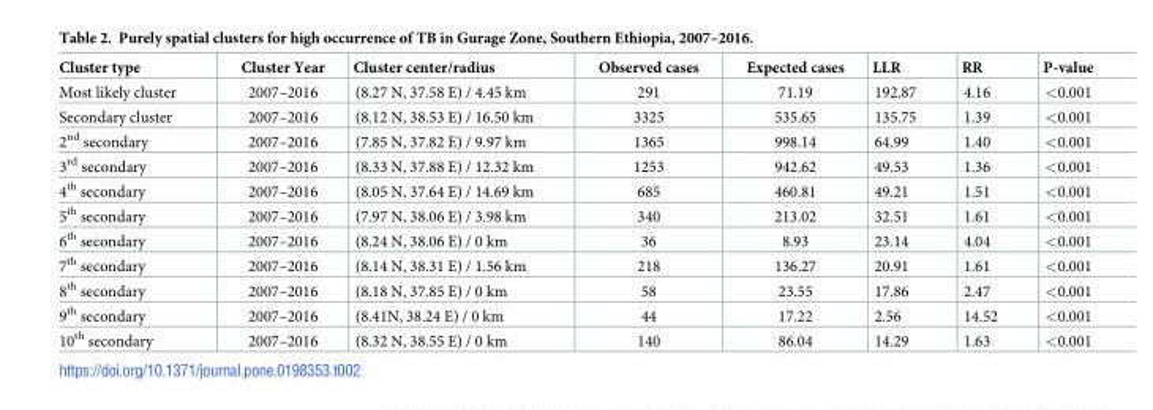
<table><thead><tr><td>Cluster type</td><td>Cluster Year</td><td>Cluster center/radius</td><td>Observed cases</td><td>Expected cases</td><td>LLR</td><td>RR</td><td>P-value</td></tr></thead><tbody><tr><td>Most likely cluster</td><td>2007–2016</td><td>(8.27 N, 37.58 E) / 4.45 km</td><td>291</td><td>71.19</td><td>192.87</td><td>4.16</td><td>&lt;0.001</td></tr><tr><td>Secondary cluster</td><td>2007–2016</td><td>(8.12 N, 38.53 E) / 16.50 km</td><td>3325</td><td>535.65</td><td>135.75</td><td>1.39</td><td>&lt;0.001</td></tr><tr><td>2<sup>nd</sup> secondary</td><td>2007–2016</td><td>(7.85 N, 37.82 E) / 9.97 km</td><td>1365</td><td>998.14</td><td>64.99</td><td>1.40</td><td>&lt;0.001</td></tr><tr><td>3<sup>rd</sup> secondary</td><td>2007–2016</td><td>(8.33 N, 37.88 E) / 12.32 km</td><td>1253</td><td>942.62</td><td>49.53</td><td>1.36</td><td>&lt;0.001</td></tr><tr><td>4<sup>th</sup> secondary</td><td>2007–2016</td><td>(8.05 N, 37.64 E) / 14.69 km</td><td>685</td><td>460.81</td><td>49.21</td><td>1.51</td><td>&lt;0.001</td></tr><tr><td>5<sup>th</sup> secondary</td><td>2007–2016</td><td>(7.97 N, 38.06 E) / 3.98 km</td><td>340</td><td>213.02</td><td>32.51</td><td>1.61</td><td>&lt;0.001</td></tr><tr><td>6<sup>th</sup> secondary</td><td>2007–2016</td><td>(8.24 N, 38.06 E) / 0 km</td><td>36</td><td>8.93</td><td>23.14</td><td>4.04</td><td>&lt;0.001</td></tr><tr><td>7<sup>th</sup> secondary</td><td>2007–2016</td><td>(8.14 N, 38.31 E) / 1.56 km</td><td>218</td><td>136.27</td><td>20.91</td><td>1.61</td><td>&lt;0.001</td></tr><tr><td>8<sup>th</sup> secondary</td><td>2007–2016</td><td>(8.18 N, 37.85 E) / 0 km</td><td>58</td><td>23.55</td><td>17.86</td><td>2.47</td><td>&lt;0.001</td></tr><tr><td>9<sup>th</sup> secondary</td><td>2007–2016</td><td>(8.41N, 38.24 E) / 0 km</td><td>44</td><td>17.22</td><td>2.56</td><td>14.52</td><td>&lt;0.001</td></tr><tr><td>10<sup>th</sup> secondary</td><td>2007–2016</td><td>(8.32 N, 38.55 E) / 0 km</td><td>140</td><td>86.04</td><td>14.29</td><td>1.63</td><td>&lt;0.001</td></tr></tbody></table>